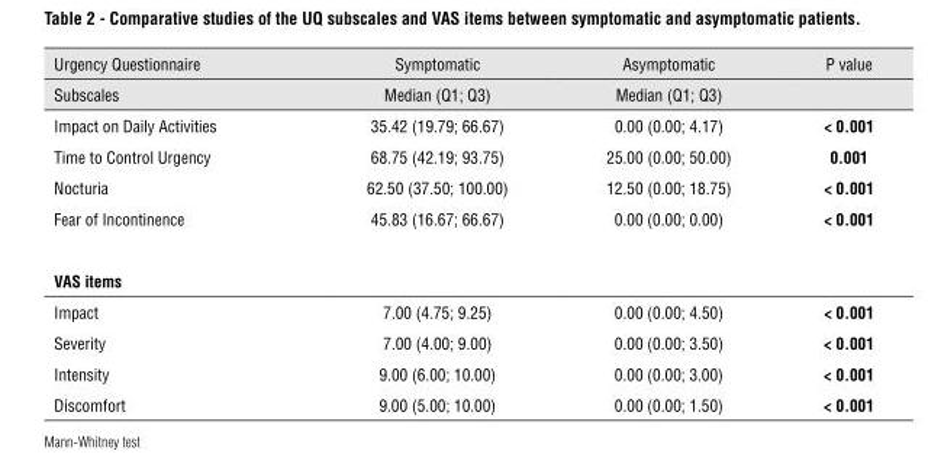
<table><thead><tr><td rowspan="2">Urgency Questionnaire Subscales</td><td rowspan="2">Symptomatic Median (Q1; Q3)</td><td rowspan="2">Asymptomatic Median (Q1; Q3)</td><td rowspan="2">P value</td></tr><tr></tr></thead><tbody><tr><td>Impact on Daily Activities</td><td>35.42 (19.79; 66.67)</td><td>0.00 (0.00; 4.17)</td><td>&lt; 0.001</td></tr><tr><td>Time to Control Urgency</td><td>68.75 (42.19; 93.75)</td><td>25.00 (0.00; 50.00)</td><td>0.001</td></tr><tr><td>Nocturia</td><td>62.50 (37.50; 100.00)</td><td>12.50 (0.00; 18.75)</td><td>&lt; 0.001</td></tr><tr><td>Fear of Incontinence</td><td>45.83 (16.67; 66.67)</td><td>0.00 (0.00; 0.00)</td><td>&lt; 0.001</td></tr><tr><td colspan="4">vAS items</td></tr><tr><td>Impact</td><td>7.00 (4.75; 9.25)</td><td>0.00 (0.00; 4.50)</td><td>&lt; 0.001</td></tr><tr><td>Severity</td><td>7.00 (4.00; 9.00)</td><td>0.00 (0.00; 3.50)</td><td>&lt; 0.001</td></tr><tr><td>Intensity</td><td>9.00 (6.00; 10.00)</td><td>0.00 (0.00; 3.00)</td><td>&lt; 0.001</td></tr><tr><td>Discomfort</td><td>9.00 (5.00; 10.00)</td><td>0.00 (0.00; 1.50)</td><td>&lt; 0.001</td></tr></tbody></table>